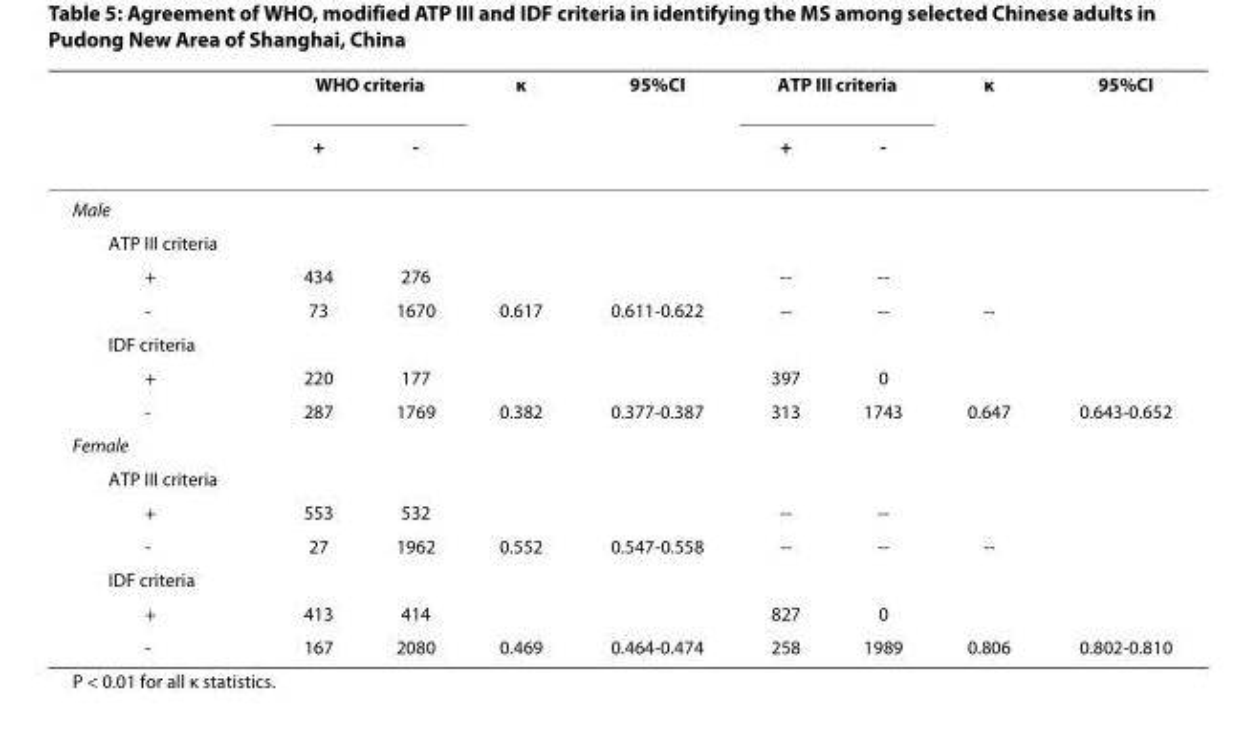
<table><thead><tr><td rowspan="2"></td><td colspan="2">WHO criteria</td><td rowspan="2">κ</td><td rowspan="2">95%CI</td><td colspan="2">ATP III criteria</td><td rowspan="2">κ</td><td rowspan="2">95%CI</td></tr><tr><td>+</td><td>-</td><td>+</td><td>-</td></tr></thead><tbody><tr><td colspan="9">Male</td></tr><tr><td colspan="9">ATP III criteria</td></tr><tr><td>+</td><td>434</td><td>276</td><td></td><td></td><td>--</td><td>--</td><td></td><td></td></tr><tr><td>-</td><td>73</td><td>1670</td><td>0.617</td><td>0.611-0.622</td><td>--</td><td>--</td><td>--</td><td></td></tr><tr><td colspan="9">IDF criteria</td></tr><tr><td>+</td><td>220</td><td>177</td><td></td><td></td><td>397</td><td>0</td><td></td><td></td></tr><tr><td>-</td><td>287</td><td>1769</td><td>0.382</td><td>0.377-0.387</td><td>313</td><td>1743</td><td>0.647</td><td>0.643-0.652</td></tr><tr><td colspan="9">Female</td></tr><tr><td colspan="9">ATP III criteria</td></tr><tr><td>+</td><td>553</td><td>532</td><td></td><td></td><td>--</td><td>--</td><td></td><td></td></tr><tr><td>-</td><td>27</td><td>1962</td><td>0.552</td><td>0.547-0.558</td><td>--</td><td>--</td><td>--</td><td></td></tr><tr><td colspan="9">IDF criteria</td></tr><tr><td>+</td><td>413</td><td>414</td><td></td><td></td><td>827</td><td>0</td><td></td><td></td></tr><tr><td>-</td><td>167</td><td>2080</td><td>0.469</td><td>0.464-0.474</td><td>258</td><td>1989</td><td>0.806</td><td>0.802-0.810</td></tr></tbody></table>